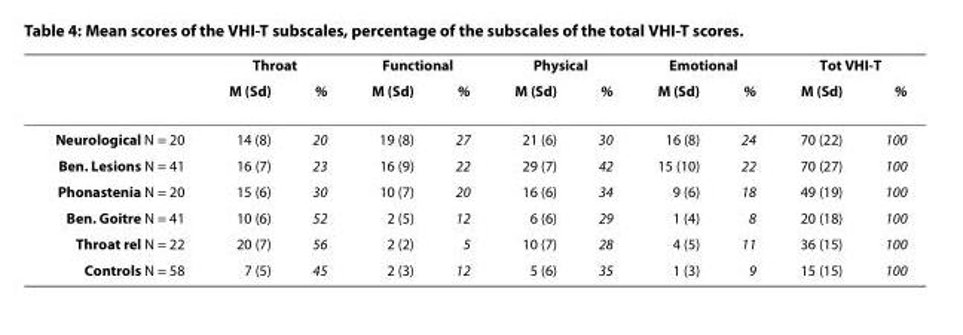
<table><thead><tr><td rowspan="2"></td><td colspan="2">Throat</td><td colspan="2">Functional</td><td colspan="2">Physical</td><td colspan="2">Emotional</td><td colspan="2">Tot VHI-T</td></tr><tr><td>M (Sd)</td><td>%</td><td>M (Sd)</td><td>%</td><td>M (Sd)</td><td>%</td><td>M (Sd)</td><td>%</td><td>M (Sd)</td><td>%</td></tr></thead><tbody><tr><td>Neurological N = 20</td><td>14 (8)</td><td>20</td><td>19 (8)</td><td>27</td><td>21 (6)</td><td>30</td><td>16 (8)</td><td>24</td><td>70 (22)</td><td>100</td></tr><tr><td>Ben. Lesions N = 41</td><td>16 (7)</td><td>23</td><td>16 (9)</td><td>22</td><td>29 (7)</td><td>42</td><td>15 (10)</td><td>22</td><td>70 (27)</td><td>100</td></tr><tr><td>Phonastenia N = 20</td><td>15 (6)</td><td>30</td><td>10 (7)</td><td>20</td><td>16 (6)</td><td>34</td><td>9 (6)</td><td>18</td><td>49 (19)</td><td>100</td></tr><tr><td>Ben. Goitre N = 41</td><td>10 (6)</td><td>52</td><td>2 (5)</td><td>12</td><td>6 (6)</td><td>29</td><td>1 (4)</td><td>8</td><td>20 (18)</td><td>100</td></tr><tr><td>Throat rel N = 22</td><td>20 (7)</td><td>56</td><td>2 (2)</td><td>5</td><td>10 (7)</td><td>28</td><td>4 (5)</td><td>11</td><td>36 (15)</td><td>100</td></tr><tr><td>Controls N = 58</td><td>7 (5)</td><td>45</td><td>2 (3)</td><td>12</td><td>5 (6)</td><td>35</td><td>1 (3)</td><td>9</td><td>15 (15)</td><td>100</td></tr></tbody></table>